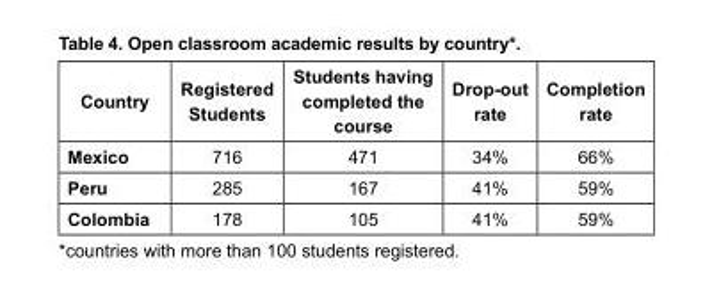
<table><thead><tr><td>Country</td><td>Registered Students</td><td>Students having completed the course</td><td>Drop-out rate</td><td>Completion rate</td></tr></thead><tbody><tr><td>Mexico</td><td>716</td><td>471</td><td>34%</td><td>66%</td></tr><tr><td>Peru</td><td>285</td><td>167</td><td>41%</td><td>59%</td></tr><tr><td>Colombia</td><td>178</td><td>105</td><td>41%</td><td>59%</td></tr></tbody></table>